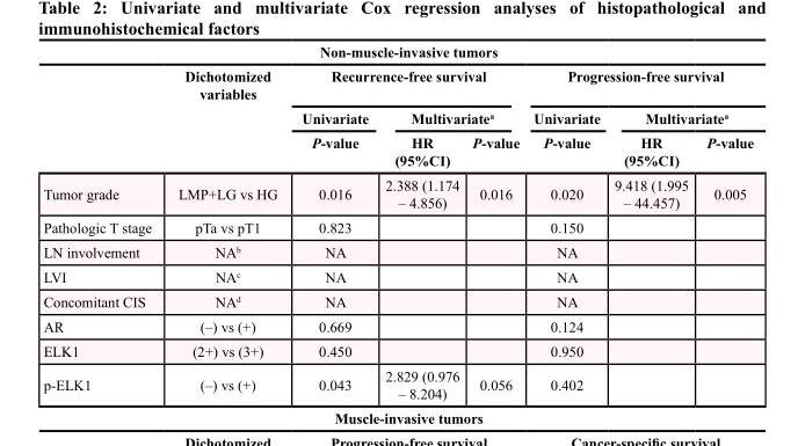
<table><thead><tr><td colspan="8">Non-muscle-invasive tumors</td></tr><tr><td rowspan="3"></td><td rowspan="3">Dichotomized variables</td><td colspan="3">Recurrence-free survival</td><td colspan="3">Progression-free survival</td></tr><tr><td rowspan="2">Univariate P-value</td><td colspan="2">Multivariate<sup>a</sup></td><td rowspan="2">Univariate P-value</td><td colspan="2">Multivariate<sup>a</sup></td></tr><tr><td>HR (95%CI)</td><td>P-value</td><td>HR (95%CI)</td><td>P-value</td></tr></thead><tbody><tr><td>Tumor grade</td><td>LMP+LG vs HG</td><td>0.016</td><td>2.388 (1.174 – 4.856)</td><td>0.016</td><td>0.020</td><td>9.418 (1.995 – 44.457)</td><td>0.005</td></tr><tr><td>Pathologic T stage</td><td>pTa vs pT1</td><td>0.823</td><td></td><td></td><td>0.150</td><td></td><td></td></tr><tr><td>LN involvement</td><td>NA<sup>b</sup></td><td>NA</td><td></td><td></td><td>NA</td><td></td><td></td></tr><tr><td>LVI</td><td>NA<sup>c</sup></td><td>NA</td><td></td><td></td><td>NA</td><td></td><td></td></tr><tr><td>Concomitant CIS</td><td>NA<sup>d</sup></td><td>NA</td><td></td><td></td><td>NA</td><td></td><td></td></tr><tr><td>AR</td><td>(–) vs (+)</td><td>0.669</td><td></td><td></td><td>0.124</td><td></td><td></td></tr><tr><td>ELK1</td><td>(2+) vs (3+)</td><td>0.450</td><td></td><td></td><td>0.950</td><td></td><td></td></tr><tr><td>p-ELK1</td><td>(–) vs (+)</td><td>0.043</td><td>2.829 (0.976 – 8.204)</td><td>0.056</td><td>0.402</td><td></td><td></td></tr></tbody></table>